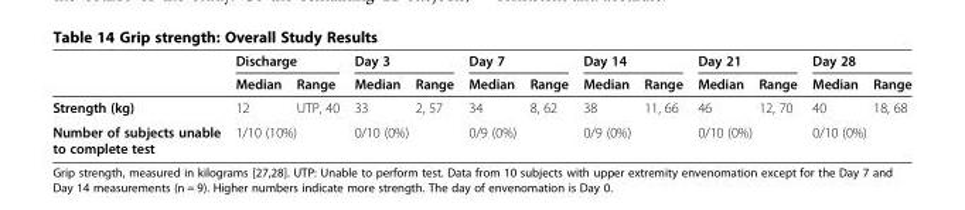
<table><thead><tr><td rowspan="2"></td><td colspan="2">Discharge</td><td colspan="2">Day 3</td><td colspan="2">Day 7</td><td colspan="2">Day 14</td><td colspan="2">Day 21</td><td colspan="2">Day 28</td></tr><tr><td>Median</td><td>Range</td><td>Median</td><td>Range</td><td>Median</td><td>Range</td><td>Median</td><td>Range</td><td>Median</td><td>Range</td><td>Median</td><td>Range</td></tr></thead><tbody><tr><td>Strength (kg)</td><td>12</td><td>UTP, 40</td><td>33</td><td>2, 57</td><td>34</td><td>8, 62</td><td>38</td><td>11, 66</td><td>46</td><td>12, 70</td><td>40</td><td>18, 68</td></tr><tr><td>Number of subjects unable to complete test</td><td colspan="2">1/10 (10%)</td><td colspan="2">0/10 (0%)</td><td colspan="2">0/9 (0%)</td><td colspan="2">0/9 (0%)</td><td colspan="2">0/10 (0%)</td><td colspan="2">0/10 (0%)</td></tr></tbody></table>